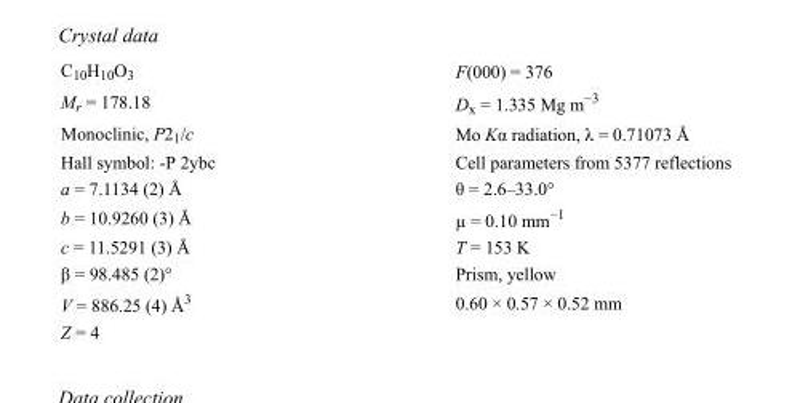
<table><tbody><tr><td>C<sub>10</sub>H<sub>10</sub>O<sub>3</sub></td><td>F(000) = 376</td></tr><tr><td>M<sub>r</sub> = 178.18</td><td>D<sub>x</sub> = 1.335 Mg m<sup>−3</sup></td></tr><tr><td>Monoclinic, P2<sub>1</sub>/c</td><td>Mo Kα radiation, λ = 0.71073 Å</td></tr><tr><td>Hall symbol: -P 2ybc</td><td>Cell parameters from 5377 reflections</td></tr><tr><td>a = 7.1134 (2) Å</td><td>θ = 2.6–33.0°</td></tr><tr><td>b = 10.9260 (3) Å</td><td>µ = 0.10 mm<sup>−1</sup></td></tr><tr><td>c = 11.5291 (3) Å</td><td>T = 153 K</td></tr><tr><td>β = 98.485 (2)°</td><td>Prism, yellow</td></tr><tr><td>V = 886.25 (4) Å<sup>3</sup></td><td>0.60 × 0.57 × 0.52 mm</td></tr><tr><td>Z = 4</td><td></td></tr></tbody></table>